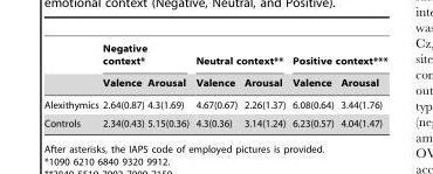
<table><thead><tr><td rowspan="2"></td><td colspan="2">Negative context*</td><td colspan="2">Neutral context**</td><td colspan="2">Positive context***</td></tr><tr><td>Valence</td><td>Arousal</td><td>Valence</td><td>Arousal</td><td>Valence</td><td>Arousal</td></tr></thead><tbody><tr><td>Alexithymics</td><td>2.64(0.87)</td><td>4.3(1.69)</td><td>4.67(0.67)</td><td>2.26(1.37)</td><td>6.08(0.64)</td><td>3.44(1.76)</td></tr><tr><td>Controls</td><td>2.34(0.43)</td><td>5.15(0.36)</td><td>4.3(0.36)</td><td>3.14(1.24)</td><td>6.23(0.57)</td><td>4.04(1.47)</td></tr></tbody></table>